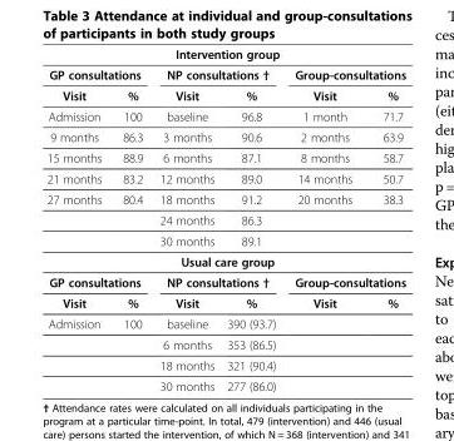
<table><thead><tr><td colspan="6">Intervention group</td></tr><tr><td colspan="2">GP consultations</td><td colspan="2">NP consultations †</td><td colspan="2">Group-consultations</td></tr><tr><td>Visit</td><td>%</td><td>Visit</td><td>%</td><td>Visit</td><td>%</td></tr></thead><tbody><tr><td>Admission</td><td>100</td><td>baseline</td><td>96.8</td><td>1 month</td><td>71.7</td></tr><tr><td>9 months</td><td>86.3</td><td>3 months</td><td>90.6</td><td>2 months</td><td>63.9</td></tr><tr><td>15 months</td><td>88.9</td><td>6 months</td><td>87.1</td><td>8 months</td><td>58.7</td></tr><tr><td>21 months</td><td>83.2</td><td>12 months</td><td>89.0</td><td>14 months</td><td>50.7</td></tr><tr><td rowspan="3">27 months</td><td>80.4</td><td>18 months</td><td>91.2</td><td>20 months</td><td>38.3</td></tr><tr><td></td><td>24 months</td><td>86.3</td><td></td><td></td></tr><tr><td></td><td>30 months</td><td>89.1</td><td></td><td></td></tr><tr><td colspan="6">Usual care group</td></tr><tr><td colspan="2">GP consultations</td><td colspan="2">NP consultations †</td><td colspan="2">Group-consultations</td></tr><tr><td>Visit</td><td>%</td><td>Visit</td><td>%</td><td>Visit</td><td>%</td></tr><tr><td rowspan="4">Admission</td><td>100</td><td>baseline</td><td>390 (93.7)</td><td></td><td></td></tr><tr><td></td><td>6 months</td><td>353 (86.5)</td><td></td><td></td></tr><tr><td></td><td>18 months</td><td>321 (90.4)</td><td></td><td></td></tr><tr><td></td><td>30 months</td><td>277 (86.0)</td><td></td><td></td></tr></tbody></table>